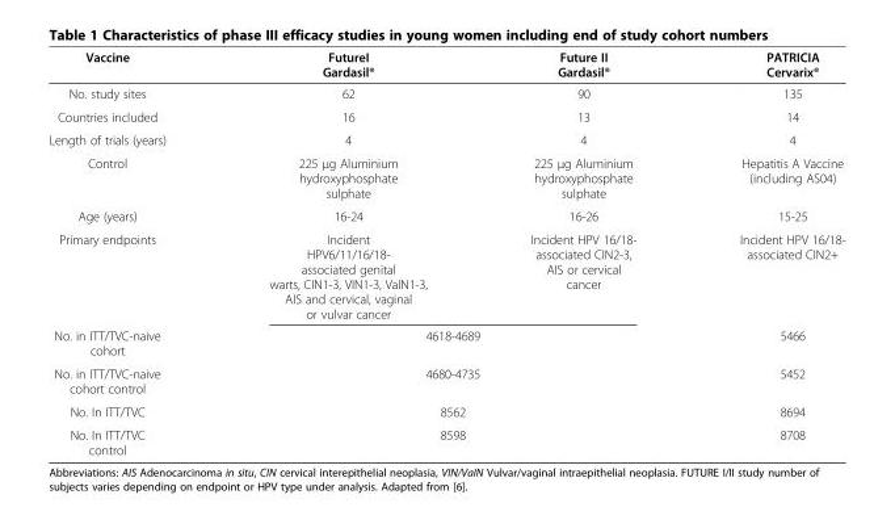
<table><thead><tr><td>Vaccine</td><td>FutureI Gardasil®</td><td>Future II Gardasil®</td><td>PATRICIA Cervarix®</td></tr></thead><tbody><tr><td>No. study sites</td><td>62</td><td>90</td><td>135</td></tr><tr><td>Countries included</td><td>16</td><td>13</td><td>14</td></tr><tr><td>Length of trials (years)</td><td>4</td><td>4</td><td>4</td></tr><tr><td>Control</td><td>225 μg Aluminium hydroxyphosphate sulphate</td><td>225 μg Aluminium hydroxyphosphate sulphate</td><td>Hepatitis A Vaccine (including AS04)</td></tr><tr><td>Age (years)</td><td>16-24</td><td>16-26</td><td>15-25</td></tr><tr><td>Primary endpoints</td><td>Incident HPV6/11/16/18- associated genital warts, CIN1-3, VIN1-3, ValN1-3, AIS and cervical, vaginal or vulvar cancer</td><td>Incident HPV 16/18- associated CIN2-3, AIS or cervical cancer</td><td>Incident HPV 16/18- associated CIN2+</td></tr><tr><td>No. in ITT/TVC-naive cohort</td><td colspan="2">4618-4689</td><td>5466</td></tr><tr><td>No. in ITT/TVC-naive cohort control</td><td colspan="2">4680-4735</td><td>5452</td></tr><tr><td>No. In ITT/TVC</td><td colspan="2">8562</td><td>8694</td></tr><tr><td>No. In ITT/TVC control</td><td colspan="2">8598</td><td>8708</td></tr></tbody></table>